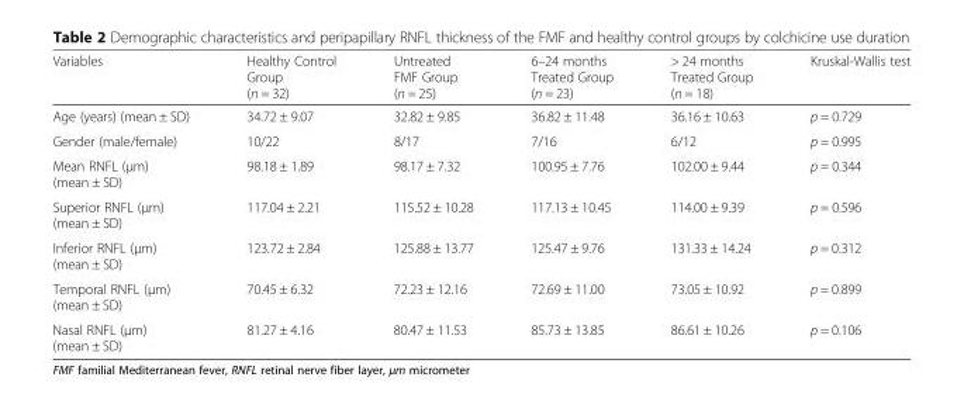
<table><thead><tr><td>Variables</td><td>Healthy Control Group (n = 32)</td><td>Untreated FMF Group (n = 25)</td><td>6–24 months Treated Group (n = 23)</td><td>&gt; 24 months Treated Group (n = 18)</td><td>Kruskal-Wallis test</td></tr></thead><tbody><tr><td>Age (years) (mean ± SD)</td><td>34.72 ± 9.07</td><td>32.82 ± 9.85</td><td>36.82 ± 11.48</td><td>36.16 ± 10.63</td><td>p = 0.729</td></tr><tr><td>Gender (male/female)</td><td>10/22</td><td>8/17</td><td>7/16</td><td>6/12</td><td>p = 0.995</td></tr><tr><td>Mean RNFL (μm) (mean ± SD)</td><td>98.18 ± 1.89</td><td>98.17 ± 7.32</td><td>100.95 ± 7.76</td><td>102.00 ± 9.44</td><td>p = 0.344</td></tr><tr><td>Superior RNFL (μm) (mean ± SD)</td><td>117.04 ± 2.21</td><td>115.52 ± 10.28</td><td>117.13 ± 10.45</td><td>114.00 ± 9.39</td><td>p = 0.596</td></tr><tr><td>Inferior RNFL (μm) (mean ± SD)</td><td>123.72 ± 2.84</td><td>125.88 ± 13.77</td><td>125.47 ± 9.76</td><td>131.33 ± 14.24</td><td>p = 0.312</td></tr><tr><td>Temporal RNFL (μm) (mean ± SD)</td><td>70.45 ± 6.32</td><td>72.23 ± 12.16</td><td>72.69 ± 11.00</td><td>73.05 ± 10.92</td><td>p = 0.899</td></tr><tr><td>Nasal RNFL (μm) (mean ± SD)</td><td>81.27 ± 4.16</td><td>80.47 ± 11.53</td><td>85.73 ± 13.85</td><td>86.61 ± 10.26</td><td>p = 0.106</td></tr></tbody></table>